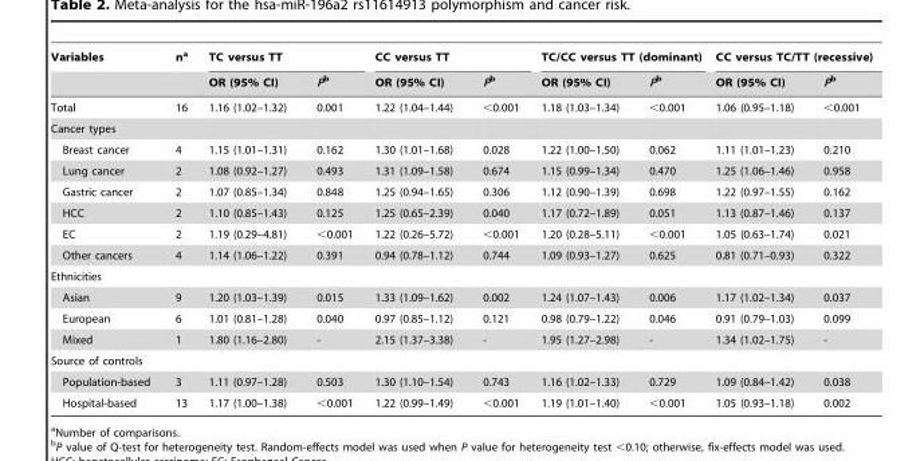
<table><thead><tr><td rowspan="2">Variables</td><td rowspan="2">n<sup>a</sup></td><td colspan="2">TC versus TT</td><td colspan="2">CC versus TT</td><td colspan="2">TC/CC versus TT (dominant)</td><td colspan="2">CC versus TC/TT (recessive)</td></tr><tr><td>OR (95% CI)</td><td>Pb</td><td>OR (95% CI)</td><td>Pb</td><td>OR (95% CI)</td><td>Pb</td><td>OR (95% CI)</td><td>Pb</td></tr></thead><tbody><tr><td>Total</td><td>16</td><td>1.16 (1.02–1.32)</td><td>0.001</td><td>1.22 (1.04–1.44)</td><td>&lt;0.001</td><td>1.18 (1.03–1.34)</td><td>&lt;0.001</td><td>1.06 (0.95–1.18)</td><td>&lt;0.001</td></tr><tr><td colspan="10">Cancer types</td></tr><tr><td>Breast cancer</td><td>4</td><td>1.15 (1.01–1.31)</td><td>0.162</td><td>1.30 (1.01–1.68)</td><td>0.028</td><td>1.22 (1.00–1.50)</td><td>0.062</td><td>1.11 (1.01–1.23)</td><td>0.210</td></tr><tr><td>Lung cancer</td><td>2</td><td>1.08 (0.92–1.27)</td><td>0.493</td><td>1.31 (1.09–1.58)</td><td>0.674</td><td>1.15 (0.99–1.34)</td><td>0.470</td><td>1.25 (1.06–1.46)</td><td>0.958</td></tr><tr><td>Gastric cancer</td><td>2</td><td>1.07 (0.85–1.34)</td><td>0.848</td><td>1.25 (0.94–1.65)</td><td>0.306</td><td>1.12 (0.90–1.39)</td><td>0.698</td><td>1.22 (0.97–1.55)</td><td>0.162</td></tr><tr><td>HCC</td><td>2</td><td>1.10 (0.85–1.43)</td><td>0.125</td><td>1.25 (0.65–2.39)</td><td>0.040</td><td>1.17 (0.72–1.89)</td><td>0.051</td><td>1.13 (0.87–1.46)</td><td>0.137</td></tr><tr><td>EC</td><td>2</td><td>1.19 (0.29–4.81)</td><td>&lt;0.001</td><td>1.22 (0.26–5.72)</td><td>&lt;0.001</td><td>1.20 (0.28–5.11)</td><td>&lt;0.001</td><td>1.05 (0.63–1.74)</td><td>0.021</td></tr><tr><td>Other cancers</td><td>4</td><td>1.14 (1.06–1.22)</td><td>0.391</td><td>0.94 (0.78–1.12)</td><td>0.744</td><td>1.09 (0.93–1.27)</td><td>0.625</td><td>0.81 (0.71–0.93)</td><td>0.322</td></tr><tr><td colspan="10">Ethnicities</td></tr><tr><td>Asian</td><td>9</td><td>1.20 (1.03–1.39)</td><td>0.015</td><td>1.33 (1.09–1.62)</td><td>0.002</td><td>1.24 (1.07–1.43)</td><td>0.006</td><td>1.17 (1.02–1.34)</td><td>0.037</td></tr><tr><td>European</td><td>6</td><td>1.01 (0.81–1.28)</td><td>0.040</td><td>0.97 (0.85–1.12)</td><td>0.121</td><td>0.98 (0.79–1.22)</td><td>0.046</td><td>0.91 (0.79–1.03)</td><td>0.099</td></tr><tr><td>Mixed</td><td>1</td><td>1.80 (1.16–2.80)</td><td>-</td><td>2.15 (1.37–3.38)</td><td>-</td><td>1.95 (1.27–2.98)</td><td>-</td><td>1.34 (1.02–1.75)</td><td>-</td></tr><tr><td colspan="10">Source of controls</td></tr><tr><td>Population-based</td><td>3</td><td>1.11 (0.97–1.28)</td><td>0.503</td><td>1.30 (1.10–1.54)</td><td>0.743</td><td>1.16 (1.02–1.33)</td><td>0.729</td><td>1.09 (0.84–1.42)</td><td>0.038</td></tr><tr><td>Hospital-based</td><td>13</td><td>1.17 (1.00–1.38)</td><td>&lt;0.001</td><td>1.22 (0.99–1.49)</td><td>&lt;0.001</td><td>1.19 (1.01–1.40)</td><td>&lt;0.001</td><td>1.05 (0.93–1.18)</td><td>0.002</td></tr></tbody></table>